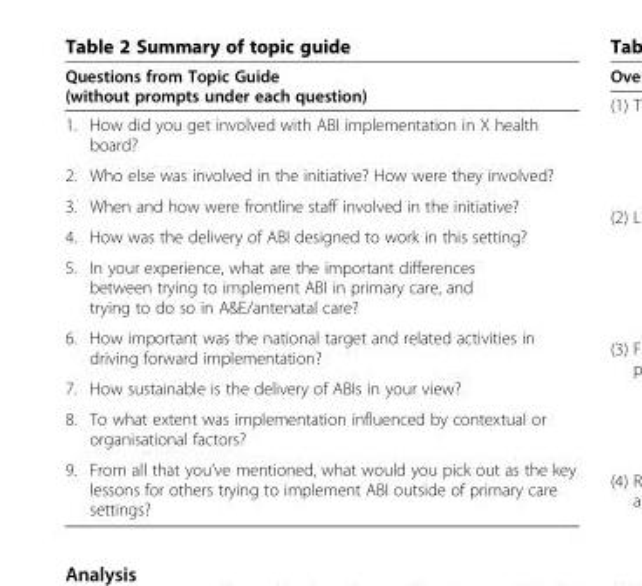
<table><thead><tr><td colspan="2">Questions from Topic Guide (without prompts under each question)</td></tr><tr><td>1.</td><td>How did you get involved with ABI implementation in X health board?</td></tr></thead><tbody><tr><td>2.</td><td>Who else was involved in the initiative? How were they involved?</td></tr><tr><td>3.</td><td>When and how were frontline staff involved in the initiative?</td></tr><tr><td>4.</td><td>How was the delivery of ABI designed to work in this setting?</td></tr><tr><td>5.</td><td>In your experience, what are the important differences between trying to implement ABI in primary care, and trying to do so in A&amp;E/antenatal care?</td></tr><tr><td>6.</td><td>How important was the national target and related activities in driving forward implementation?</td></tr><tr><td>7.</td><td>How sustainable is the delivery of ABIs in your view?</td></tr><tr><td>8.</td><td>To what extent was implementation influenced by contextual or organisational factors?</td></tr><tr><td>9.</td><td>From all that you’ve mentioned, what would you pick out as the key lessons for others trying to implement ABI outside of primary care settings?</td></tr></tbody></table>